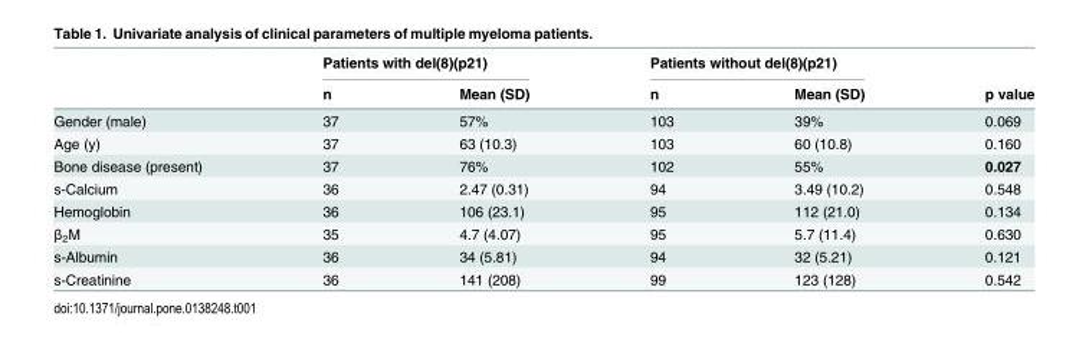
<table><thead><tr><td rowspan="2"></td><td colspan="2">Patients with del(8)(p21)</td><td colspan="2">Patients without del(8)(p21)</td><td rowspan="2">p value</td></tr><tr><td>n</td><td>Mean (SD)</td><td>n</td><td>Mean (SD)</td></tr></thead><tbody><tr><td>Gender (male)</td><td>37</td><td>57%</td><td>103</td><td>39%</td><td>0.069</td></tr><tr><td>Age (y)</td><td>37</td><td>63 (10.3)</td><td>103</td><td>60 (10.8)</td><td>0.160</td></tr><tr><td>Bone disease (present)</td><td>37</td><td>76%</td><td>102</td><td>55%</td><td>0.027</td></tr><tr><td>s-Calcium</td><td>36</td><td>2.47 (0.31)</td><td>94</td><td>3.49 (10.2)</td><td>0.548</td></tr><tr><td>Hemoglobin</td><td>36</td><td>106 (23.1)</td><td>95</td><td>112 (21.0)</td><td>0.134</td></tr><tr><td>β<sub>2</sub>M</td><td>35</td><td>4.7 (4.07)</td><td>95</td><td>5.7 (11.4)</td><td>0.630</td></tr><tr><td>s-Albumin</td><td>36</td><td>34 (5.81)</td><td>94</td><td>32 (5.21)</td><td>0.121</td></tr><tr><td>s-Creatinine</td><td>36</td><td>141 (208)</td><td>99</td><td>123 (128)</td><td>0.542</td></tr></tbody></table>